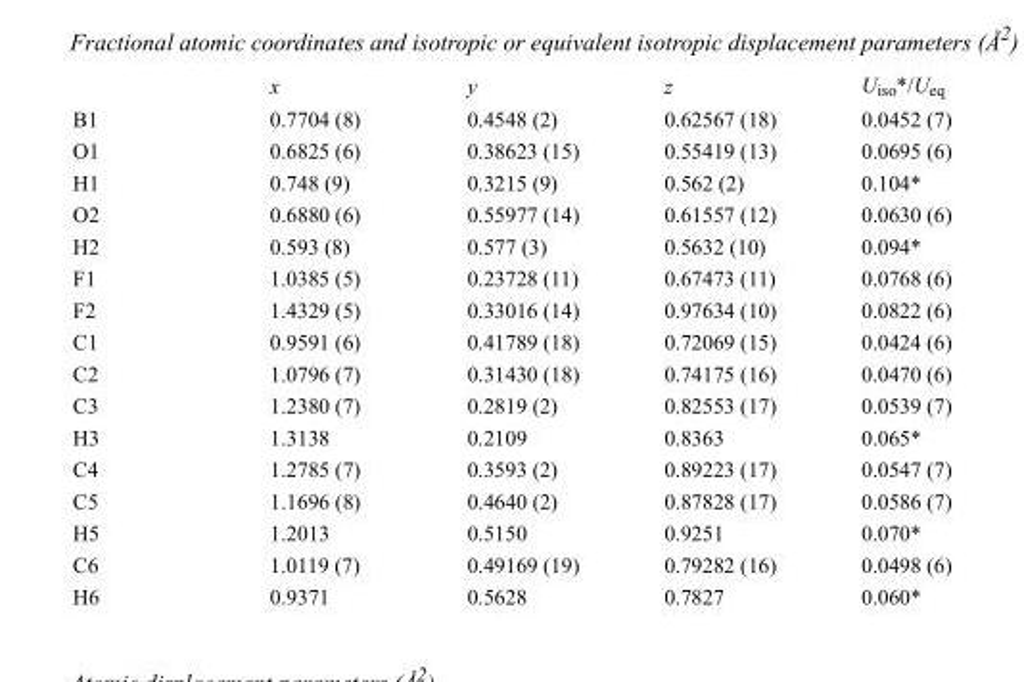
<table><thead><tr><td></td><td>x</td><td>y</td><td>z</td><td>U<sub>iso</sub>*/U<sub>eq</sub></td></tr></thead><tbody><tr><td>B1</td><td>0.7704 (8)</td><td>0.4548 (2)</td><td>0.62567 (18)</td><td>0.0452 (7)</td></tr><tr><td>O1</td><td>0.6825 (6)</td><td>0.38623 (15)</td><td>0.55419 (13)</td><td>0.0695 (6)</td></tr><tr><td>H1</td><td>0.748 (9)</td><td>0.3215 (9)</td><td>0.562 (2)</td><td>0.104*</td></tr><tr><td>O2</td><td>0.6880 (6)</td><td>0.55977 (14)</td><td>0.61557 (12)</td><td>0.0630 (6)</td></tr><tr><td>H2</td><td>0.593 (8)</td><td>0.577 (3)</td><td>0.5632 (10)</td><td>0.094*</td></tr><tr><td>F1</td><td>1.0385 (5)</td><td>0.23728 (11)</td><td>0.67473 (11)</td><td>0.0768 (6)</td></tr><tr><td>F2</td><td>1.4329 (5)</td><td>0.33016 (14)</td><td>0.97634 (10)</td><td>0.0822 (6)</td></tr><tr><td>C1</td><td>0.9591 (6)</td><td>0.41789 (18)</td><td>0.72069 (15)</td><td>0.0424 (6)</td></tr><tr><td>C2</td><td>1.0796 (7)</td><td>0.31430 (18)</td><td>0.74175 (16)</td><td>0.0470 (6)</td></tr><tr><td>C3</td><td>1.2380 (7)</td><td>0.2819 (2)</td><td>0.82553 (17)</td><td>0.0539 (7)</td></tr><tr><td>H3</td><td>1.3138</td><td>0.2109</td><td>0.8363</td><td>0.065*</td></tr><tr><td>C4</td><td>1.2785 (7)</td><td>0.3593 (2)</td><td>0.89223 (17)</td><td>0.0547 (7)</td></tr><tr><td>C5</td><td>1.1696 (8)</td><td>0.4640 (2)</td><td>0.87828 (17)</td><td>0.0586 (7)</td></tr><tr><td>H5</td><td>1.2013</td><td>0.5150</td><td>0.9251</td><td>0.070*</td></tr><tr><td>C6</td><td>1.0119 (7)</td><td>0.49169 (19)</td><td>0.79282 (16)</td><td>0.0498 (6)</td></tr><tr><td>H6</td><td>0.9371</td><td>0.5628</td><td>0.7827</td><td>0.060*</td></tr></tbody></table>